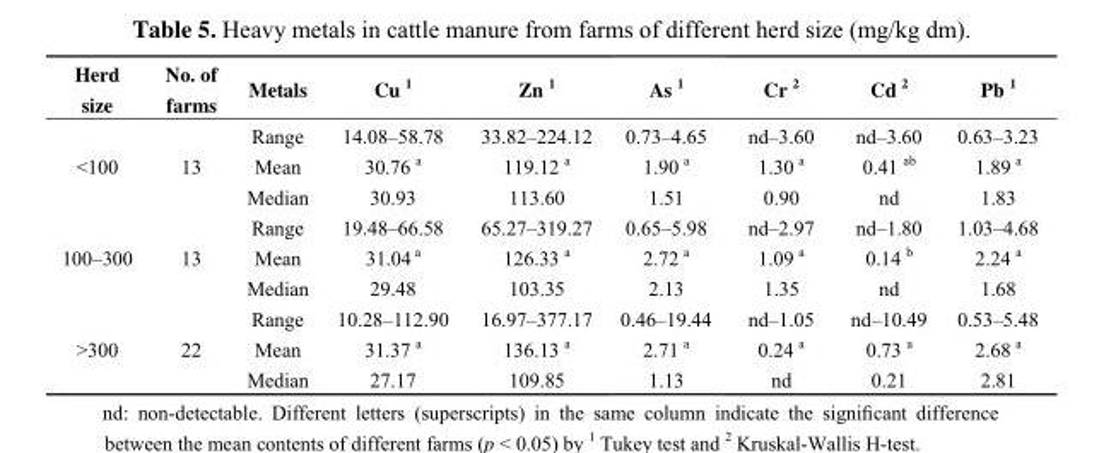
<table><thead><tr><td>Herd size</td><td>No. of farms</td><td>Metals</td><td>Cu <sup>1</sup></td><td>Zn <sup>1</sup></td><td>As <sup>1</sup></td><td>Cr <sup>2</sup></td><td>Cd <sup>2</sup></td><td>Pb <sup>1</sup></td></tr></thead><tbody><tr><td rowspan="3">&lt;100</td><td rowspan="3">13</td><td>Range</td><td>14.08–58.78</td><td>33.82–224.12</td><td>0.73–4.65</td><td>nd–3.60</td><td>nd–3.60</td><td>0.63–3.23</td></tr><tr><td>Mean</td><td>30.76 <sup>a</sup></td><td>119.12 <sup>a</sup></td><td>1.90 <sup>a</sup></td><td>1.30 <sup>a</sup></td><td>0.41 <sup>ab</sup></td><td>1.89 <sup>a</sup></td></tr><tr><td>Median</td><td>30.93</td><td>113.60</td><td>1.51</td><td>0.90</td><td>nd</td><td>1.83</td></tr><tr><td rowspan="3">100–300</td><td rowspan="3">13</td><td>Range</td><td>19.48–66.58</td><td>65.27–319.27</td><td>0.65–5.98</td><td>nd–2.97</td><td>nd–1.80</td><td>1.03–4.68</td></tr><tr><td>Mean</td><td>31.04 <sup>a</sup></td><td>126.33 <sup>a</sup></td><td>2.72 <sup>a</sup></td><td>1.09 <sup>a</sup></td><td>0.14 <sup>b</sup></td><td>2.24 <sup>a</sup></td></tr><tr><td>Median</td><td>29.48</td><td>103.35</td><td>2.13</td><td>1.35</td><td>nd</td><td>1.68</td></tr><tr><td rowspan="3">&gt;300</td><td rowspan="3">22</td><td>Range</td><td>10.28–112.90</td><td>16.97–377.17</td><td>0.46–19.44</td><td>nd–1.05</td><td>nd–10.49</td><td>0.53–5.48</td></tr><tr><td>Mean</td><td>31.37 <sup>a</sup></td><td>136.13 <sup>a</sup></td><td>2.71 <sup>a</sup></td><td>0.24 <sup>a</sup></td><td>0.73 <sup>a</sup></td><td>2.68 <sup>a</sup></td></tr><tr><td>Median</td><td>27.17</td><td>109.85</td><td>1.13</td><td>nd</td><td>0.21</td><td>2.81</td></tr></tbody></table>